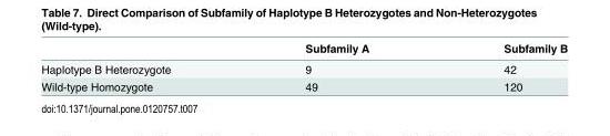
<table><thead><tr><td></td><td>Subfamily A</td><td>Subfamily B</td></tr></thead><tbody><tr><td>Haplotype B Heterozygote</td><td>9</td><td>42</td></tr><tr><td>Wild-type Homozygote</td><td>49</td><td>120</td></tr></tbody></table>